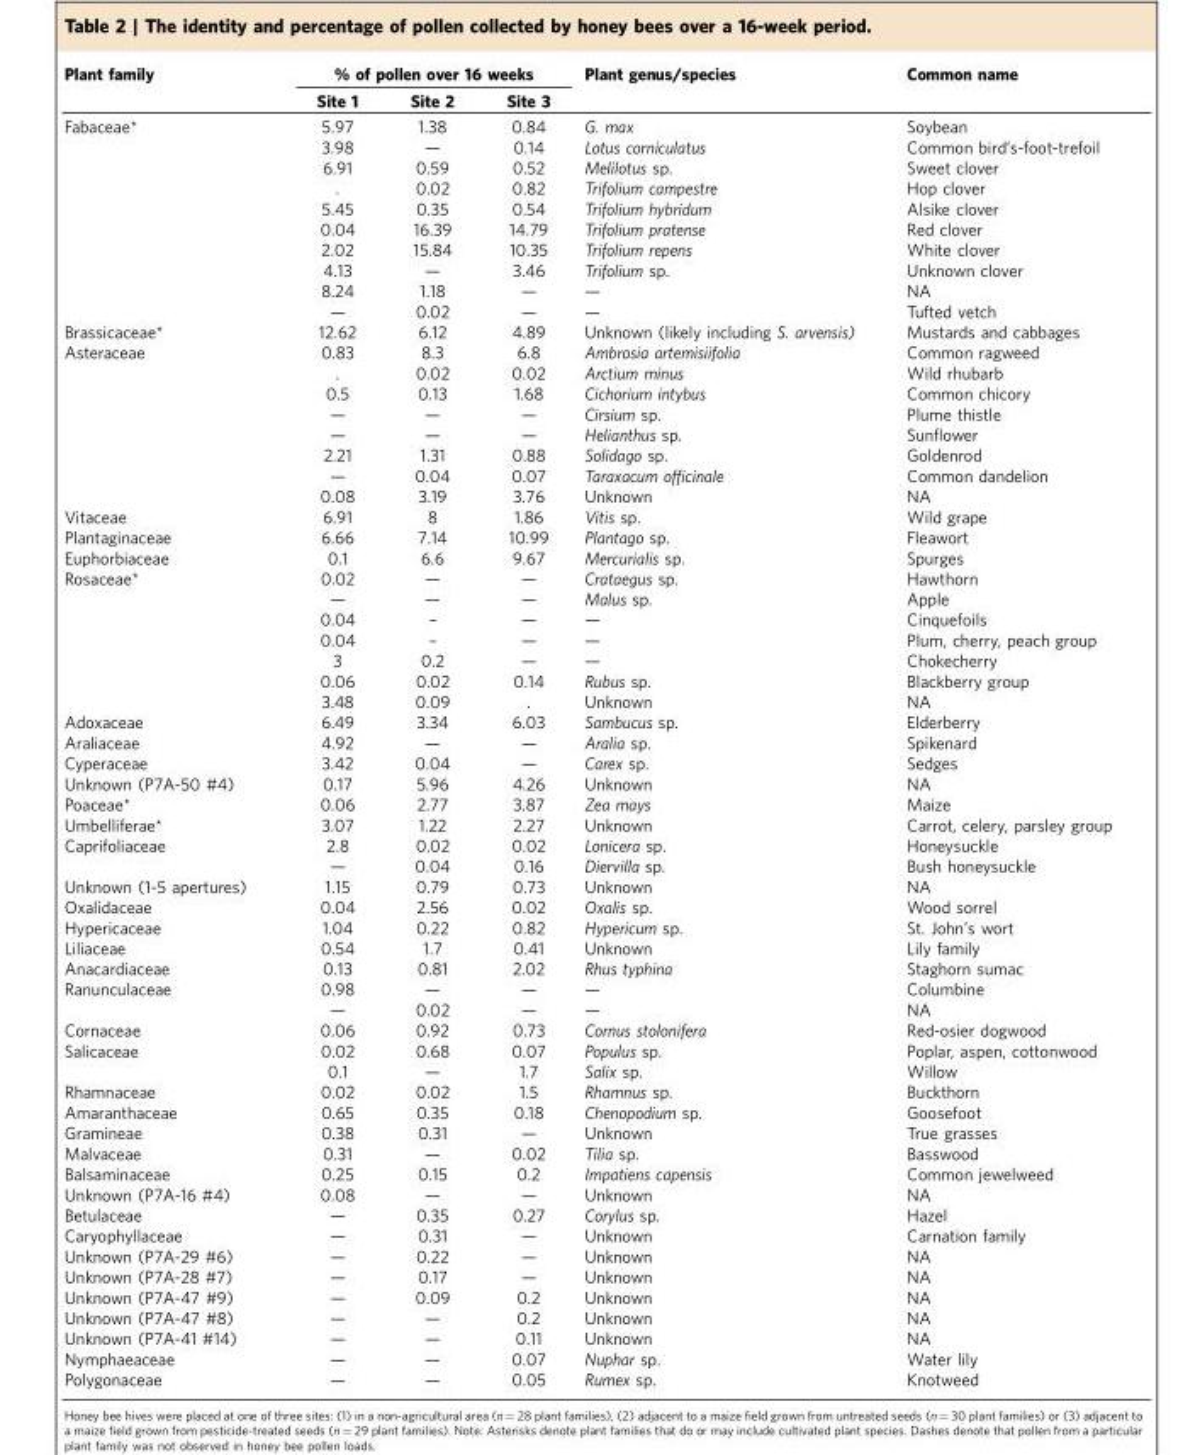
<table><thead><tr><td rowspan="2">Plant family</td><td colspan="3">% of pollen over 16 weeks</td><td rowspan="2">Plant genus/species</td><td rowspan="2">Common name</td></tr><tr><td>Site 1</td><td>Site 2</td><td>Site 3</td></tr></thead><tbody><tr><td rowspan="10">Fabaceae*</td><td>5.97</td><td>1.38</td><td>0.84</td><td>G. max</td><td>Soybean</td></tr><tr><td>3.98</td><td>—</td><td>0.14</td><td>Lotus corniculatus</td><td>Common bird’s-foot-trefoil</td></tr><tr><td>6.91</td><td>0.59</td><td>0.52</td><td>Melilotus sp.</td><td>Sweet clover</td></tr><tr><td>.</td><td>0.02</td><td>0.82</td><td>Trifolium campestre</td><td>Hop clover</td></tr><tr><td>5.45</td><td>0.35</td><td>0.54</td><td>Trifolium hybridum</td><td>Alsike clover</td></tr><tr><td>0.04</td><td>16.39</td><td>14.79</td><td>Trifolium pratense</td><td>Red clover</td></tr><tr><td>2.02</td><td>15.84</td><td>10.35</td><td>Trifolium repens</td><td>White clover</td></tr><tr><td>4.13</td><td>—</td><td>3.46</td><td>Trifolium sp.</td><td>Unknown clover</td></tr><tr><td>8.24</td><td>1.18</td><td>—</td><td>—</td><td>NA</td></tr><tr><td>—</td><td>0.02</td><td>—</td><td>—</td><td>Tufted vetch</td></tr><tr><td>Brassicaceae*</td><td>12.62</td><td>6.12</td><td>4.89</td><td>Unknown (likely including S. arvensis)</td><td>Mustards and cabbages</td></tr><tr><td rowspan="8">Asteraceae</td><td>0.83</td><td>8.3</td><td>6.8</td><td>Ambrosia artemisiifolia</td><td>Common ragweed</td></tr><tr><td>.</td><td>0.02</td><td>0.02</td><td>Arctium minus</td><td>Wild rhubarb</td></tr><tr><td>0.5</td><td>0.13</td><td>1.68</td><td>Cichorium intybus</td><td>Common chicory</td></tr><tr><td>—</td><td>—</td><td>—</td><td>Cirsium sp.</td><td>Plume thistle</td></tr><tr><td>—</td><td>—</td><td>—</td><td>Helianthus sp.</td><td>Sunflower</td></tr><tr><td>2.21</td><td>1.31</td><td>0.88</td><td>Solidago sp.</td><td>Goldenrod</td></tr><tr><td>—</td><td>0.04</td><td>0.07</td><td>Taraxacum officinale</td><td>Common dandelion</td></tr><tr><td>0.08</td><td>3.19</td><td>3.76</td><td>Unknown</td><td>NA</td></tr><tr><td>Vitaceae</td><td>6.91</td><td>8</td><td>1.86</td><td>Vitis sp.</td><td>Wild grape</td></tr><tr><td>Plantaginaceae</td><td>6.66</td><td>7.14</td><td>10.99</td><td>Plantago sp.</td><td>Fleawort</td></tr><tr><td>Euphorbiaceae</td><td>0.1</td><td>6.6</td><td>9.67</td><td>Mercurialis sp.</td><td>Spurges</td></tr><tr><td rowspan="7">Rosaceae*</td><td>0.02</td><td>—</td><td>—</td><td>Crataegus sp.</td><td>Hawthorn</td></tr><tr><td>—</td><td>—</td><td>—</td><td>Malus sp.</td><td>Apple</td></tr><tr><td>0.04</td><td>–</td><td>—</td><td>—</td><td>Cinquefoils</td></tr><tr><td>0.04</td><td>–</td><td>—</td><td>—</td><td>Plum, cherry, peach group</td></tr><tr><td>3</td><td>0.2</td><td>—</td><td>—</td><td>Chokecherry</td></tr><tr><td>0.06</td><td>0.02</td><td>0.14</td><td>Rubus sp.</td><td>Blackberry group</td></tr><tr><td>3.48</td><td>0.09</td><td>.</td><td>Unknown</td><td>NA</td></tr><tr><td>Adoxaceae</td><td>6.49</td><td>3.34</td><td>6.03</td><td>Sambucus sp.</td><td>Elderberry</td></tr><tr><td>Araliaceae</td><td>4.92</td><td>—</td><td>—</td><td>Aralia sp.</td><td>Spikenard</td></tr><tr><td>Cyperaceae</td><td>3.42</td><td>0.04</td><td>—</td><td>Carex sp.</td><td>Sedges</td></tr><tr><td>Unknown (P7A-50 #4)</td><td>0.17</td><td>5.96</td><td>4.26</td><td>Unknown</td><td>NA</td></tr><tr><td>Poaceae*</td><td>0.06</td><td>2.77</td><td>3.87</td><td>Zea mays</td><td>Maize</td></tr><tr><td>Umbelliferae*</td><td>3.07</td><td>1.22</td><td>2.27</td><td>Unknown</td><td>Carrot, celery, parsley group</td></tr><tr><td rowspan="2">Caprifoliaceae</td><td>2.8</td><td>0.02</td><td>0.02</td><td>Lonicera sp.</td><td>Honeysuckle</td></tr><tr><td>—</td><td>0.04</td><td>0.16</td><td>Diervilla sp.</td><td>Bush honeysuckle</td></tr><tr><td>Unknown (1-5 apertures)</td><td>1.15</td><td>0.79</td><td>0.73</td><td>Unknown</td><td>NA</td></tr><tr><td>Oxalidaceae</td><td>0.04</td><td>2.56</td><td>0.02</td><td>Oxalis sp.</td><td>Wood sorrel</td></tr><tr><td>Hypericaceae</td><td>1.04</td><td>0.22</td><td>0.82</td><td>Hypericum sp.</td><td>St. John’s wort</td></tr><tr><td>Liliaceae</td><td>0.54</td><td>1.7</td><td>0.41</td><td>Unknown</td><td>Lily family</td></tr><tr><td>Anacardiaceae</td><td>0.13</td><td>0.81</td><td>2.02</td><td>Rhus typhina</td><td>Staghorn sumac</td></tr><tr><td rowspan="2">Ranunculaceae</td><td>0.98</td><td>—</td><td>—</td><td>—</td><td>Columbine</td></tr><tr><td>—</td><td>0.02</td><td>—</td><td>—</td><td>NA</td></tr><tr><td>Cornaceae</td><td>0.06</td><td>0.92</td><td>0.73</td><td>Cornus stolonifera</td><td>Red-osier dogwood</td></tr><tr><td rowspan="2">Salicaceae</td><td>0.02</td><td>0.68</td><td>0.07</td><td>Populus sp.</td><td>Poplar, aspen, cottonwood</td></tr><tr><td>0.1</td><td>—</td><td>1.7</td><td>Salix sp.</td><td>Willow</td></tr><tr><td>Rhamnaceae</td><td>0.02</td><td>0.02</td><td>1.5</td><td>Rhamnus sp.</td><td>Buckthorn</td></tr><tr><td>Amaranthaceae</td><td>0.65</td><td>0.35</td><td>0.18</td><td>Chenopodium sp.</td><td>Goosefoot</td></tr><tr><td>Gramineae</td><td>0.38</td><td>0.31</td><td>—</td><td>Unknown</td><td>True grasses</td></tr><tr><td>Malvaceae</td><td>0.31</td><td>—</td><td>0.02</td><td>Tilia sp.</td><td>Basswood</td></tr><tr><td>Balsaminaceae</td><td>0.25</td><td>0.15</td><td>0.2</td><td>Impatiens capensis</td><td>Common jewelweed</td></tr><tr><td>Unknown (P7A-16 #4)</td><td>0.08</td><td>—</td><td>—</td><td>Unknown</td><td>NA</td></tr><tr><td>Betulaceae</td><td>—</td><td>0.35</td><td>0.27</td><td>Corylus sp.</td><td>Hazel</td></tr><tr><td>Caryophyllaceae</td><td>—</td><td>0.31</td><td>—</td><td>Unknown</td><td>Carnation family</td></tr><tr><td>Unknown (P7A-29 #6)</td><td>—</td><td>0.22</td><td>—</td><td>Unknown</td><td>NA</td></tr><tr><td>Unknown (P7A-28 #7)</td><td>—</td><td>0.17</td><td>—</td><td>Unknown</td><td>NA</td></tr><tr><td>Unknown (P7A-47 #9)</td><td>—</td><td>0.09</td><td>0.2</td><td>Unknown</td><td>NA</td></tr><tr><td>Unknown (P7A-47 #8)</td><td>—</td><td>—</td><td>0.2</td><td>Unknown</td><td>NA</td></tr><tr><td>Unknown (P7A-41 #14)</td><td>—</td><td>—</td><td>0.11</td><td>Unknown</td><td>NA</td></tr><tr><td>Nymphaeaceae</td><td>—</td><td>—</td><td>0.07</td><td>Nuphar sp.</td><td>Water lily</td></tr><tr><td>Polygonaceae</td><td>—</td><td>—</td><td>0.05</td><td>Rumex sp.</td><td>Knotweed</td></tr></tbody></table>